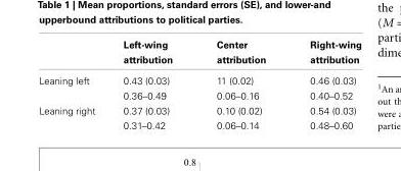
<table><thead><tr><td></td><td>Left-wing attribution</td><td>Center attribution</td><td>Right-wing attribution</td></tr></thead><tbody><tr><td>Leaning left</td><td>0.43 (0.03) 0.36–0.49</td><td>11 (0.02) 0.06–0.16</td><td>0.46 (0.03) 0.40–0.52</td></tr><tr><td>Leaning right</td><td>0.37 (0.03) 0.31–0.42</td><td>0.10 (0.02) 0.06–0.14</td><td>0.54 (0.03) 0.48–0.60</td></tr></tbody></table>